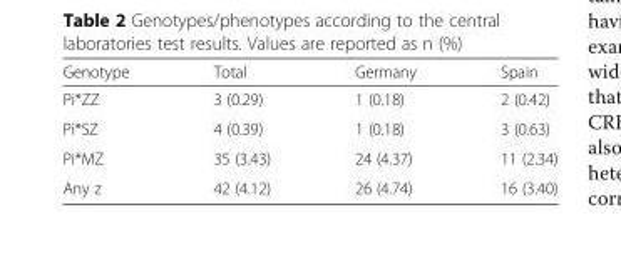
<table><thead><tr><td>Genotype</td><td>Total</td><td>Germany</td><td>Spain</td></tr></thead><tbody><tr><td>Pi*ZZ</td><td>3 (0.29)</td><td>1 (0.18)</td><td>2 (0.42)</td></tr><tr><td>Pi*SZ</td><td>4 (0.39)</td><td>1 (0.18)</td><td>3 (0.63)</td></tr><tr><td>Pi*MZ</td><td>35 (3.43)</td><td>24 (4.37)</td><td>11 (2.34)</td></tr><tr><td>Any z</td><td>42 (4.12)</td><td>26 (4.74)</td><td>16 (3.40)</td></tr></tbody></table>